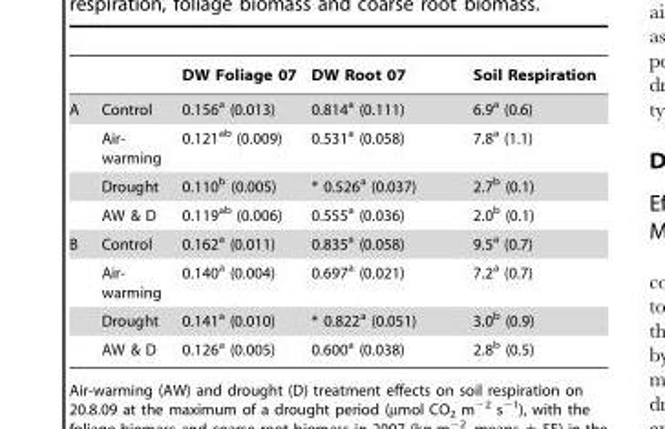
<table><thead><tr><td></td><td></td><td>DW Foliage 07</td><td>DW Root 07</td><td>Soil Respiration</td></tr></thead><tbody><tr><td rowspan="4">A</td><td>Control</td><td>0.156<sup>a</sup> (0.013)</td><td>0.814<sup>a</sup> (0.111)</td><td>6.9<sup>a</sup> (0.6)</td></tr><tr><td>Air- warming</td><td>0.121<sup>ab</sup> (0.009)</td><td>0.531<sup>a</sup> (0.058)</td><td>7.8<sup>a</sup> (1.1)</td></tr><tr><td>Drought</td><td>0.110<sup>b</sup> (0.005)</td><td>* 0.526<sup>a</sup> (0.037)</td><td>2.7<sup>b</sup> (0.1)</td></tr><tr><td>AW &amp; D</td><td>0.119<sup>ab</sup> (0.006)</td><td>0.555<sup>a</sup> (0.036)</td><td>2.0<sup>b</sup> (0.1)</td></tr><tr><td rowspan="4">B</td><td>Control</td><td>0.162<sup>a</sup> (0.011)</td><td>0.835<sup>a</sup> (0.058)</td><td>9.5<sup>a</sup> (0.7)</td></tr><tr><td>Air- warming</td><td>0.140<sup>a</sup> (0.004)</td><td>0.697<sup>a</sup> (0.021)</td><td>7.2<sup>a</sup> (0.7)</td></tr><tr><td>Drought</td><td>0.141<sup>a</sup> (0.010)</td><td>* 0.822<sup>a</sup> (0.051)</td><td>3.0<sup>b</sup> (0.9)</td></tr><tr><td>AW &amp; D</td><td>0.126<sup>a</sup> (0.005)</td><td>0.600<sup>a</sup> (0.038)</td><td>2.8<sup>b</sup> (0.5)</td></tr></tbody></table>